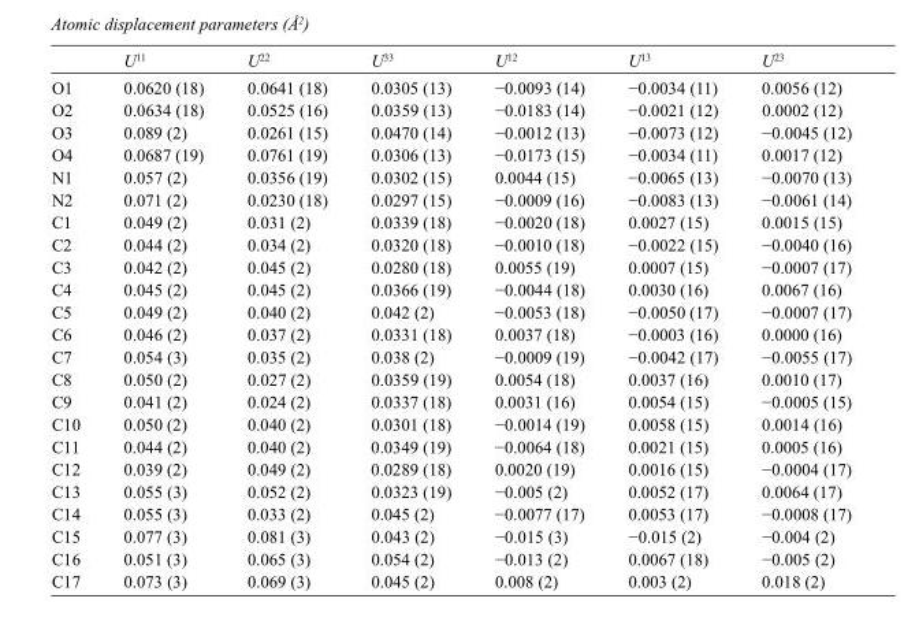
<table><thead><tr><td></td><td>U<sup>11</sup></td><td>U<sup>22</sup></td><td>U<sup>33</sup></td><td>U<sup>12</sup></td><td>U<sup>13</sup></td><td>U<sup>23</sup></td></tr></thead><tbody><tr><td>O1</td><td>0.0620 (18)</td><td>0.0641 (18)</td><td>0.0305 (13)</td><td>−0.0093 (14)</td><td>−0.0034 (11)</td><td>0.0056 (12)</td></tr><tr><td>O2</td><td>0.0634 (18)</td><td>0.0525 (16)</td><td>0.0359 (13)</td><td>−0.0183 (14)</td><td>−0.0021 (12)</td><td>0.0002 (12)</td></tr><tr><td>O3</td><td>0.089 (2)</td><td>0.0261 (15)</td><td>0.0470 (14)</td><td>−0.0012 (13)</td><td>−0.0073 (12)</td><td>−0.0045 (12)</td></tr><tr><td>O4</td><td>0.0687 (19)</td><td>0.0761 (19)</td><td>0.0306 (13)</td><td>−0.0173 (15)</td><td>−0.0034 (11)</td><td>0.0017 (12)</td></tr><tr><td>N1</td><td>0.057 (2)</td><td>0.0356 (19)</td><td>0.0302 (15)</td><td>0.0044 (15)</td><td>−0.0065 (13)</td><td>−0.0070 (13)</td></tr><tr><td>N2</td><td>0.071 (2)</td><td>0.0230 (18)</td><td>0.0297 (15)</td><td>−0.0009 (16)</td><td>−0.0083 (13)</td><td>−0.0061 (14)</td></tr><tr><td>C1</td><td>0.049 (2)</td><td>0.031 (2)</td><td>0.0339 (18)</td><td>−0.0020 (18)</td><td>0.0027 (15)</td><td>0.0015 (15)</td></tr><tr><td>C2</td><td>0.044 (2)</td><td>0.034 (2)</td><td>0.0320 (18)</td><td>−0.0010 (18)</td><td>−0.0022 (15)</td><td>−0.0040 (16)</td></tr><tr><td>C3</td><td>0.042 (2)</td><td>0.045 (2)</td><td>0.0280 (18)</td><td>0.0055 (19)</td><td>0.0007 (15)</td><td>−0.0007 (17)</td></tr><tr><td>C4</td><td>0.045 (2)</td><td>0.045 (2)</td><td>0.0366 (19)</td><td>−0.0044 (18)</td><td>0.0030 (16)</td><td>0.0067 (16)</td></tr><tr><td>C5</td><td>0.049 (2)</td><td>0.040 (2)</td><td>0.042 (2)</td><td>−0.0053 (18)</td><td>−0.0050 (17)</td><td>−0.0007 (17)</td></tr><tr><td>C6</td><td>0.046 (2)</td><td>0.037 (2)</td><td>0.0331 (18)</td><td>0.0037 (18)</td><td>−0.0003 (16)</td><td>0.0000 (16)</td></tr><tr><td>C7</td><td>0.054 (3)</td><td>0.035 (2)</td><td>0.038 (2)</td><td>−0.0009 (19)</td><td>−0.0042 (17)</td><td>−0.0055 (17)</td></tr><tr><td>C8</td><td>0.050 (2)</td><td>0.027 (2)</td><td>0.0359 (19)</td><td>0.0054 (18)</td><td>0.0037 (16)</td><td>0.0010 (17)</td></tr><tr><td>C9</td><td>0.041 (2)</td><td>0.024 (2)</td><td>0.0337 (18)</td><td>0.0031 (16)</td><td>0.0054 (15)</td><td>−0.0005 (15)</td></tr><tr><td>C10</td><td>0.050 (2)</td><td>0.040 (2)</td><td>0.0301 (18)</td><td>−0.0014 (19)</td><td>0.0058 (15)</td><td>0.0014 (16)</td></tr><tr><td>C11</td><td>0.044 (2)</td><td>0.040 (2)</td><td>0.0349 (19)</td><td>−0.0064 (18)</td><td>0.0021 (15)</td><td>0.0005 (16)</td></tr><tr><td>C12</td><td>0.039 (2)</td><td>0.049 (2)</td><td>0.0289 (18)</td><td>0.0020 (19)</td><td>0.0016 (15)</td><td>−0.0004 (17)</td></tr><tr><td>C13</td><td>0.055 (3)</td><td>0.052 (2)</td><td>0.0323 (19)</td><td>−0.005 (2)</td><td>0.0052 (17)</td><td>0.0064 (17)</td></tr><tr><td>C14</td><td>0.055 (3)</td><td>0.033 (2)</td><td>0.045 (2)</td><td>−0.0077 (17)</td><td>0.0053 (17)</td><td>−0.0008 (17)</td></tr><tr><td>C15</td><td>0.077 (3)</td><td>0.081 (3)</td><td>0.043 (2)</td><td>−0.015 (3)</td><td>−0.015 (2)</td><td>−0.004 (2)</td></tr><tr><td>C16</td><td>0.051 (3)</td><td>0.065 (3)</td><td>0.054 (2)</td><td>−0.013 (2)</td><td>0.0067 (18)</td><td>−0.005 (2)</td></tr><tr><td>C17</td><td>0.073 (3)</td><td>0.069 (3)</td><td>0.045 (2)</td><td>0.008 (2)</td><td>0.003 (2)</td><td>0.018 (2)</td></tr></tbody></table>